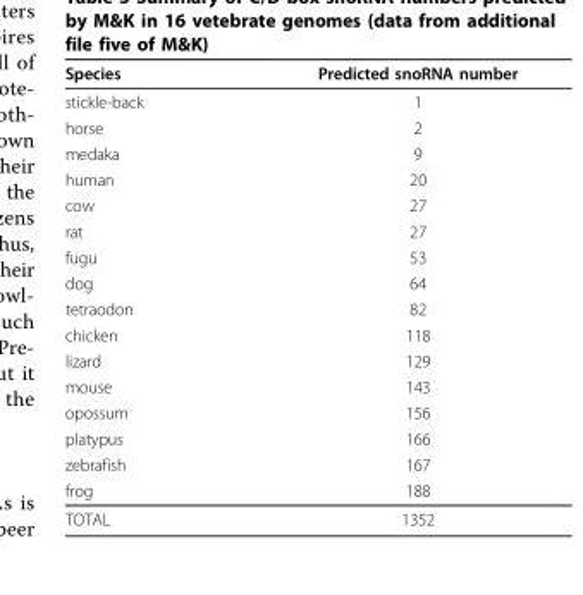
<table><thead><tr><td>Species</td><td>Predicted snoRNA number</td></tr></thead><tbody><tr><td>stickle-back</td><td>1</td></tr><tr><td>horse</td><td>2</td></tr><tr><td>medaka</td><td>9</td></tr><tr><td>human</td><td>20</td></tr><tr><td>cow</td><td>27</td></tr><tr><td>rat</td><td>27</td></tr><tr><td>fugu</td><td>53</td></tr><tr><td>dog</td><td>64</td></tr><tr><td>tetraodon</td><td>82</td></tr><tr><td>chicken</td><td>118</td></tr><tr><td>lizard</td><td>129</td></tr><tr><td>mouse</td><td>143</td></tr><tr><td>opossum</td><td>156</td></tr><tr><td>platypus</td><td>166</td></tr><tr><td>zebrafish</td><td>167</td></tr><tr><td>frog</td><td>188</td></tr><tr><td>TOTAL</td><td>1352</td></tr></tbody></table>